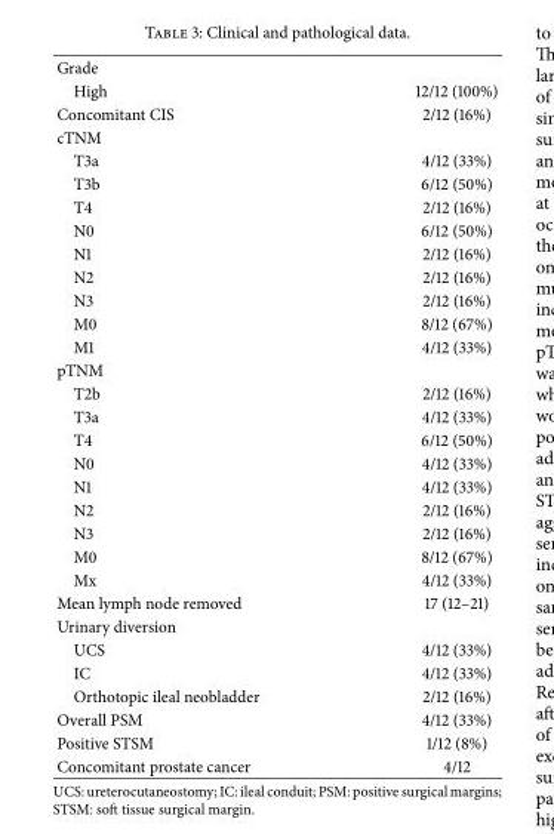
<table><tbody><tr><td colspan="2">Grade</td></tr><tr><td>High</td><td>12/12 (100%)</td></tr><tr><td>Concomitant CIS</td><td>2/12 (16%)</td></tr><tr><td colspan="2">cTNM</td></tr><tr><td>T3a</td><td>4/12 (33%)</td></tr><tr><td>T3b</td><td>6/12 (50%)</td></tr><tr><td>T4</td><td>2/12 (16%)</td></tr><tr><td>N0</td><td>6/12 (50%)</td></tr><tr><td>N1</td><td>2/12 (16%)</td></tr><tr><td>N2</td><td>2/12 (16%)</td></tr><tr><td>N3</td><td>2/12 (16%)</td></tr><tr><td>M0</td><td>8/12 (67%)</td></tr><tr><td>M1</td><td>4/12 (33%)</td></tr><tr><td colspan="2">pTNM</td></tr><tr><td>T2b</td><td>2/12 (16%)</td></tr><tr><td>T3a</td><td>4/12 (33%)</td></tr><tr><td>T4</td><td>6/12 (50%)</td></tr><tr><td>N0</td><td>4/12 (33%)</td></tr><tr><td>N1</td><td>4/12 (33%)</td></tr><tr><td>N2</td><td>2/12 (16%)</td></tr><tr><td>N3</td><td>2/12 (16%)</td></tr><tr><td>M0</td><td>8/12 (67%)</td></tr><tr><td>Mx</td><td>4/12 (33%)</td></tr><tr><td>Mean lymph node removed</td><td>17 (12–21)</td></tr><tr><td colspan="2">Urinary diversion</td></tr><tr><td>UCS</td><td>4/12 (33%)</td></tr><tr><td>IC</td><td>4/12 (33%)</td></tr><tr><td>Orthotopic ileal neobladder</td><td>2/12 (16%)</td></tr><tr><td>Overall PSM</td><td>4/12 (33%)</td></tr><tr><td>Positive STSM</td><td>1/12 (8%)</td></tr><tr><td>Concomitant prostate cancer</td><td>4/12</td></tr></tbody></table>